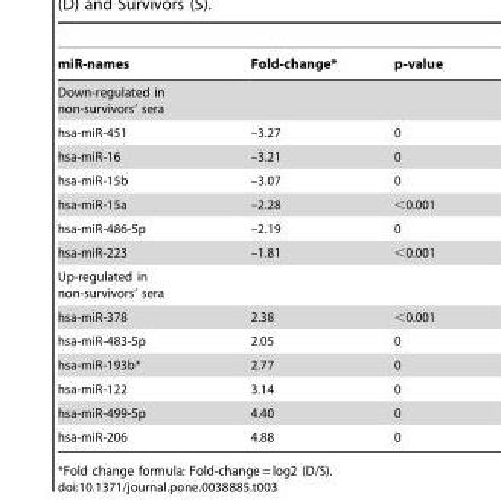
<table><thead><tr><td>miR-names</td><td>Fold-change*</td><td>p-value</td></tr></thead><tbody><tr><td colspan="3">Down-regulated in non-survivors’ sera</td></tr><tr><td>hsa-miR-451</td><td>–3.27</td><td>0</td></tr><tr><td>hsa-miR-16</td><td>–3.21</td><td>0</td></tr><tr><td>hsa-miR-15b</td><td>–3.07</td><td>0</td></tr><tr><td>hsa-miR-15a</td><td>–2.28</td><td>&lt;0.001</td></tr><tr><td>hsa-miR-486-5p</td><td>–2.19</td><td>0</td></tr><tr><td>hsa-miR-223</td><td>–1.81</td><td>&lt;0.001</td></tr><tr><td colspan="3">Up-regulated in non-survivors’ sera</td></tr><tr><td>hsa-miR-378</td><td>2.38</td><td>&lt;0.001</td></tr><tr><td>hsa-miR-483-5p</td><td>2.05</td><td>0</td></tr><tr><td>hsa-miR-193b*</td><td>2.77</td><td>0</td></tr><tr><td>hsa-miR-122</td><td>3.14</td><td>0</td></tr><tr><td>hsa-miR-499-5p</td><td>4.40</td><td>0</td></tr><tr><td>hsa-miR-206</td><td>4.88</td><td>0</td></tr></tbody></table>